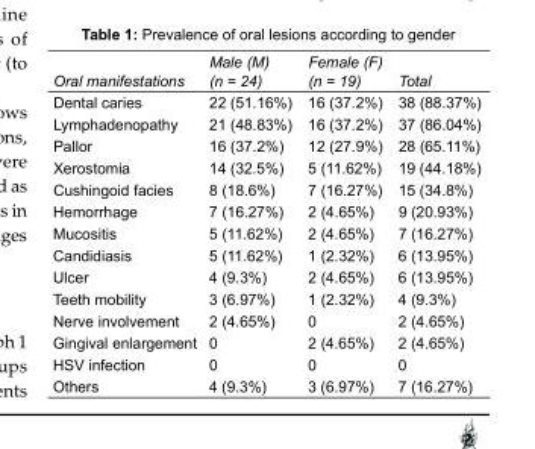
<table><thead><tr><td></td><td>Male (M)</td><td>Female (F)</td><td></td></tr></thead><tbody><tr><td>Oral manifestations</td><td>(n = 24)</td><td>(n = 19)</td><td>Total</td></tr><tr><td>Dental caries</td><td>22 (51.16%)</td><td>16 (37.2%)</td><td>38 (88.37%)</td></tr><tr><td>Lymphadenopathy</td><td>21 (48.83%)</td><td>16 (37.2%)</td><td>37 (86.04%)</td></tr><tr><td>Pallor</td><td>16 (37.2%)</td><td>12 (27.9%)</td><td>28 (65.11%)</td></tr><tr><td>Xerostomia</td><td>14 (32.5%)</td><td>5 (11.62%)</td><td>19 (44.18%)</td></tr><tr><td>Cushingoid facies</td><td>8 (18.6%)</td><td>7 (16.27%)</td><td>15 (34.8%)</td></tr><tr><td>Hemorrhage</td><td>7 (16.27%)</td><td>2 (4.65%)</td><td>9 (20.93%)</td></tr><tr><td>Mucositis</td><td>5 (11.62%)</td><td>2 (4.65%)</td><td>7 (16.27%)</td></tr><tr><td>Candidiasis</td><td>5 (11.62%)</td><td>1 (2.32%)</td><td>6 (13.95%)</td></tr><tr><td>Ulcer</td><td>4 (9.3%)</td><td>2 (4.65%)</td><td>6 (13.95%)</td></tr><tr><td>Teeth mobility</td><td>3 (6.97%)</td><td>1 (2.32%)</td><td>4 (9.3%)</td></tr><tr><td>Nerve involvement</td><td>2 (4.65%)</td><td>0</td><td>2 (4.65%)</td></tr><tr><td>Gingival enlargement</td><td>0</td><td>2 (4.65%)</td><td>2 (4.65%)</td></tr><tr><td>HSV infection</td><td>0</td><td>0</td><td>0</td></tr><tr><td>Others</td><td>4 (9.3%)</td><td>3 (6.97%)</td><td>7 (16.27%)</td></tr></tbody></table>